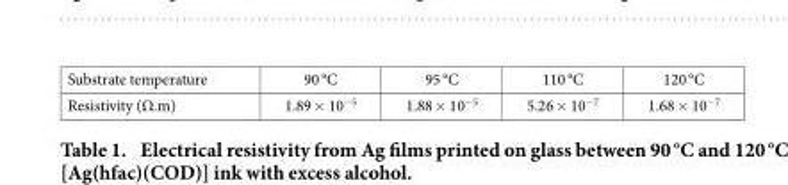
<table><tbody><tr><td>Substrate temperature</td><td>90 °C</td><td>95 °C</td><td>110 °C</td><td>120 °C</td></tr><tr><td>Resistivity (Ω.m)</td><td>1.89 × 10<sup>−5</sup></td><td>1.88 × 10<sup>−5</sup></td><td>5.26 × 10<sup>−7</sup></td><td>1.68 × 10<sup>−7</sup></td></tr></tbody></table>